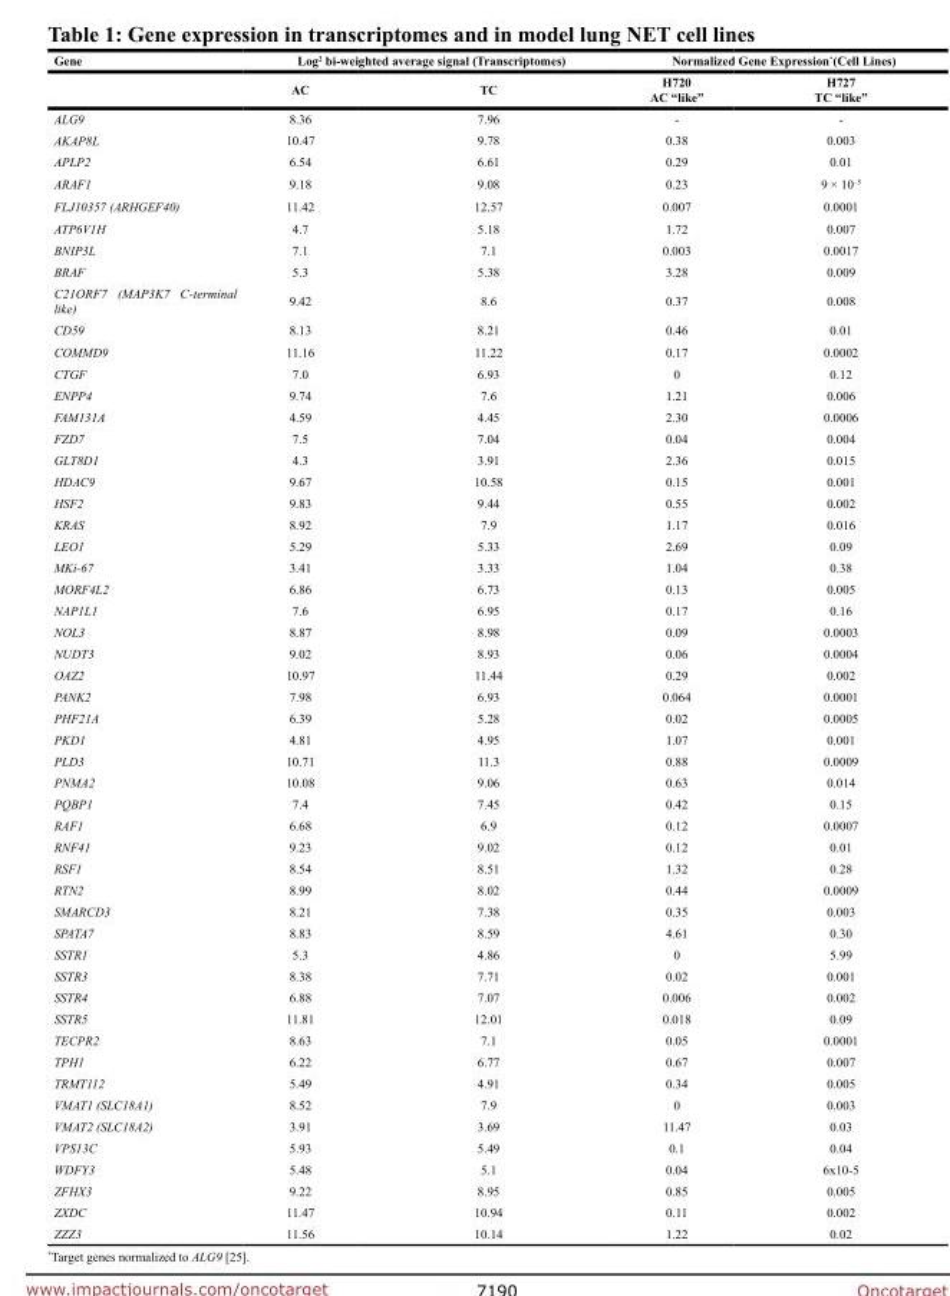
<table><thead><tr><td rowspan="2">Gene</td><td colspan="2">Log<sup>2</sup> bi-weighted average signal (Transcriptomes)</td><td colspan="2">Normalized Gene Expression*(Cell Lines)</td></tr><tr><td>AC</td><td>TC</td><td>H720 AC “like”</td><td>H727 TC “like”</td></tr></thead><tbody><tr><td>ALG9</td><td>8.36</td><td>7.96</td><td>-</td><td>-</td></tr><tr><td>AKAP8L</td><td>10.47</td><td>9.78</td><td>0.38</td><td>0.003</td></tr><tr><td>APLP2</td><td>6.54</td><td>6.61</td><td>0.29</td><td>0.01</td></tr><tr><td>ARAF1</td><td>9.18</td><td>9.08</td><td>0.23</td><td>9 × 10<sup>–5</sup></td></tr><tr><td>FLJ10357 (ARHGEF40)</td><td>11.42</td><td>12.57</td><td>0.007</td><td>0.0001</td></tr><tr><td>ATP6V1H</td><td>4.7</td><td>5.18</td><td>1.72</td><td>0.007</td></tr><tr><td>BNIP3L</td><td>7.1</td><td>7.1</td><td>0.003</td><td>0.0017</td></tr><tr><td>BRAF</td><td>5.3</td><td>5.38</td><td>3.28</td><td>0.009</td></tr><tr><td>C21ORF7 (MAP3K7 C-terminal like)</td><td>9.42</td><td>8.6</td><td>0.37</td><td>0.008</td></tr><tr><td>CD59</td><td>8.13</td><td>8.21</td><td>0.46</td><td>0.01</td></tr><tr><td>COMMD9</td><td>11.16</td><td>11.22</td><td>0.17</td><td>0.0002</td></tr><tr><td>CTGF</td><td>7.0</td><td>6.93</td><td>0</td><td>0.12</td></tr><tr><td>ENPP4</td><td>9.74</td><td>7.6</td><td>1.21</td><td>0.006</td></tr><tr><td>FAM131A</td><td>4.59</td><td>4.45</td><td>2.30</td><td>0.0006</td></tr><tr><td>FZD7</td><td>7.5</td><td>7.04</td><td>0.04</td><td>0.004</td></tr><tr><td>GLT8D1</td><td>4.3</td><td>3.91</td><td>2.36</td><td>0.015</td></tr><tr><td>HDAC9</td><td>9.67</td><td>10.58</td><td>0.15</td><td>0.001</td></tr><tr><td>HSF2</td><td>9.83</td><td>9.44</td><td>0.55</td><td>0.002</td></tr><tr><td>KRAS</td><td>8.92</td><td>7.9</td><td>1.17</td><td>0.016</td></tr><tr><td>LEO1</td><td>5.29</td><td>5.33</td><td>2.69</td><td>0.09</td></tr><tr><td>MKi-67</td><td>3.41</td><td>3.33</td><td>1.04</td><td>0.38</td></tr><tr><td>MORF4L2</td><td>6.86</td><td>6.73</td><td>0.13</td><td>0.005</td></tr><tr><td>NAP1L1</td><td>7.6</td><td>6.95</td><td>0.17</td><td>0.16</td></tr><tr><td>NOL3</td><td>8.87</td><td>8.98</td><td>0.09</td><td>0.0003</td></tr><tr><td>NUDT3</td><td>9.02</td><td>8.93</td><td>0.06</td><td>0.0004</td></tr><tr><td>OAZ2</td><td>10.97</td><td>11.44</td><td>0.29</td><td>0.002</td></tr><tr><td>PANK2</td><td>7.98</td><td>6.93</td><td>0.064</td><td>0.0001</td></tr><tr><td>PHF21A</td><td>6.39</td><td>5.28</td><td>0.02</td><td>0.0005</td></tr><tr><td>PKD1</td><td>4.81</td><td>4.95</td><td>1.07</td><td>0.001</td></tr><tr><td>PLD3</td><td>10.71</td><td>11.3</td><td>0.88</td><td>0.0009</td></tr><tr><td>PNMA2</td><td>10.08</td><td>9.06</td><td>0.63</td><td>0.014</td></tr><tr><td>PQBP1</td><td>7.4</td><td>7.45</td><td>0.42</td><td>0.15</td></tr><tr><td>RAF1</td><td>6.68</td><td>6.9</td><td>0.12</td><td>0.0007</td></tr><tr><td>RNF41</td><td>9.23</td><td>9.02</td><td>0.12</td><td>0.01</td></tr><tr><td>RSF1</td><td>8.54</td><td>8.51</td><td>1.32</td><td>0.28</td></tr><tr><td>RTN2</td><td>8.99</td><td>8.02</td><td>0.44</td><td>0.0009</td></tr><tr><td>SMARCD3</td><td>8.21</td><td>7.38</td><td>0.35</td><td>0.003</td></tr><tr><td>SPATA7</td><td>8.83</td><td>8.59</td><td>4.61</td><td>0.30</td></tr><tr><td>SSTR1</td><td>5.3</td><td>4.86</td><td>0</td><td>5.99</td></tr><tr><td>SSTR3</td><td>8.38</td><td>7.71</td><td>0.02</td><td>0.001</td></tr><tr><td>SSTR4</td><td>6.88</td><td>7.07</td><td>0.006</td><td>0.002</td></tr><tr><td>SSTR5</td><td>11.81</td><td>12.01</td><td>0.018</td><td>0.09</td></tr><tr><td>TECPR2</td><td>8.63</td><td>7.1</td><td>0.05</td><td>0.0001</td></tr><tr><td>TPH1</td><td>6.22</td><td>6.77</td><td>0.67</td><td>0.007</td></tr><tr><td>TRMT112</td><td>5.49</td><td>4.91</td><td>0.34</td><td>0.005</td></tr><tr><td>VMAT1 (SLC18A1)</td><td>8.52</td><td>7.9</td><td>0</td><td>0.003</td></tr><tr><td>VMAT2 (SLC18A2)</td><td>3.91</td><td>3.69</td><td>11.47</td><td>0.03</td></tr><tr><td>VPS13C</td><td>5.93</td><td>5.49</td><td>0.1</td><td>0.04</td></tr><tr><td>WDFY3</td><td>5.48</td><td>5.1</td><td>0.04</td><td>6x10-5</td></tr><tr><td>ZFHX3</td><td>9.22</td><td>8.95</td><td>0.85</td><td>0.005</td></tr><tr><td>ZXDC</td><td>11.47</td><td>10.94</td><td>0.11</td><td>0.002</td></tr><tr><td>ZZZ3</td><td>11.56</td><td>10.14</td><td>1.22</td><td>0.02</td></tr></tbody></table>